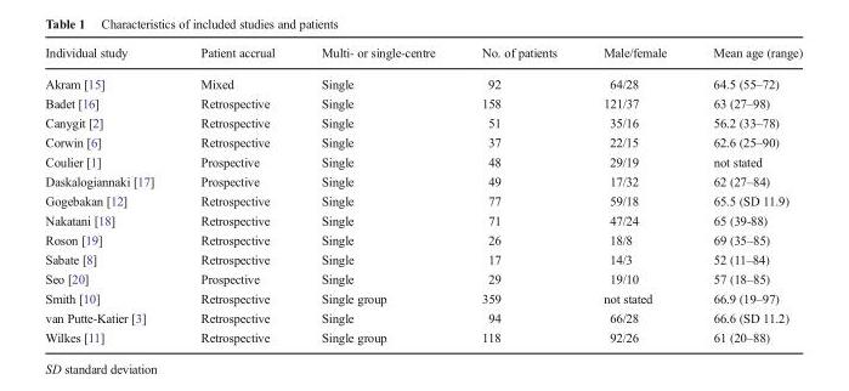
<table><thead><tr><td>Individual study</td><td>Patient accrual</td><td>Multi- or single-centre</td><td>No. of patients</td><td>Male/female</td><td>Mean age (range)</td></tr></thead><tbody><tr><td>Akram [15]</td><td>Mixed</td><td>Single</td><td>92</td><td>64/28</td><td>64.5 (55–72)</td></tr><tr><td>Badet [16]</td><td>Retrospective</td><td>Single</td><td>158</td><td>121/37</td><td>63 (27–98)</td></tr><tr><td>Canygit [2]</td><td>Retrospective</td><td>Single</td><td>51</td><td>35/16</td><td>56.2 (33–78)</td></tr><tr><td>Corwin [6]</td><td>Retrospective</td><td>Single</td><td>37</td><td>22/15</td><td>62.6 (25–90)</td></tr><tr><td>Coulier [1]</td><td>Prospective</td><td>Single</td><td>48</td><td>29/19</td><td>not stated</td></tr><tr><td>Daskalogiannaki [17]</td><td>Prospective</td><td>Single</td><td>49</td><td>17/32</td><td>62 (27–84)</td></tr><tr><td>Gogebakan [12]</td><td>Retrospective</td><td>Single</td><td>77</td><td>59/18</td><td>65.5 (SD 11.9)</td></tr><tr><td>Nakatani [18]</td><td>Retrospective</td><td>Single</td><td>71</td><td>47/24</td><td>65 (39-88)</td></tr><tr><td>Roson [19]</td><td>Retrospective</td><td>Single</td><td>26</td><td>18/8</td><td>69 (35–85)</td></tr><tr><td>Sabate [8]</td><td>Retrospective</td><td>Single</td><td>17</td><td>14/3</td><td>52 (11–84)</td></tr><tr><td>Seo [20]</td><td>Prospective</td><td>Single</td><td>29</td><td>19/10</td><td>57 (18–85)</td></tr><tr><td>Smith [10]</td><td>Retrospective</td><td>Single group</td><td>359</td><td>not stated</td><td>66.9 (19–97)</td></tr><tr><td>van Putte-Katier [3]</td><td>Retrospective</td><td>Single</td><td>94</td><td>66/28</td><td>66.6 (SD 11.2)</td></tr><tr><td>Wilkes [11]</td><td>Retrospective</td><td>Single group</td><td>118</td><td>92/26</td><td>61 (20–88)</td></tr></tbody></table>